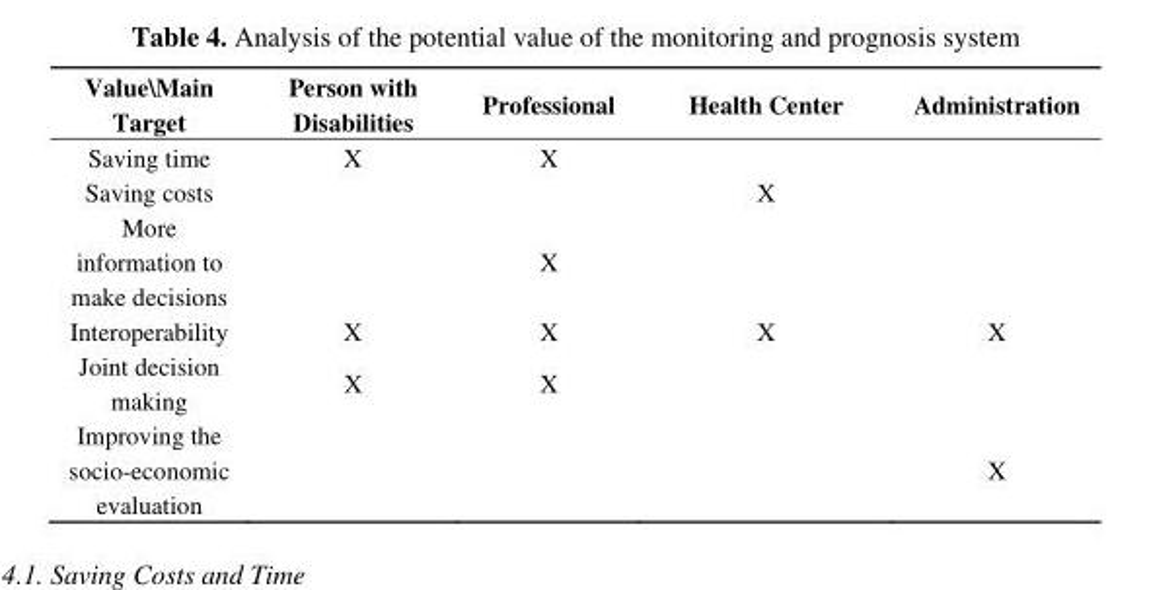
<table><thead><tr><td>Value\Main Target</td><td>Person with Disabilities</td><td>Professional</td><td>Health Center</td><td>Administration</td></tr></thead><tbody><tr><td>Saving time</td><td>X</td><td>X</td><td></td><td></td></tr><tr><td>Saving costs</td><td></td><td></td><td>X</td><td></td></tr><tr><td>More information to make decisions</td><td></td><td>X</td><td></td><td></td></tr><tr><td>Interoperability</td><td>X</td><td>X</td><td>X</td><td>X</td></tr><tr><td>Joint decision making</td><td>X</td><td>X</td><td></td><td></td></tr><tr><td>Improving the socio-economic evaluation</td><td></td><td></td><td></td><td>X</td></tr></tbody></table>